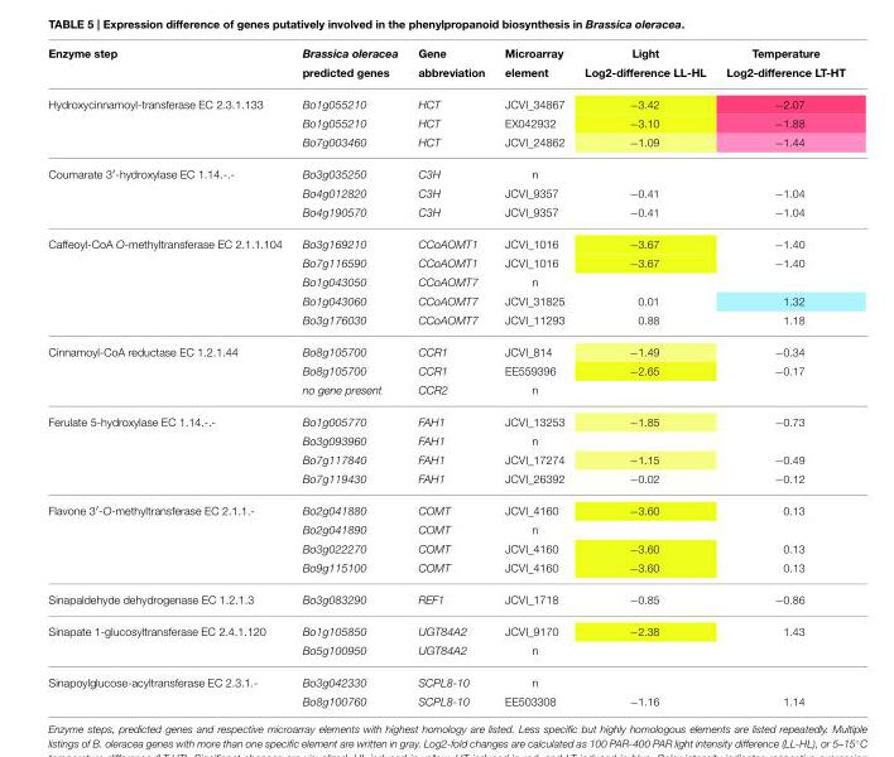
<table><thead><tr><td>Enzyme step</td><td>Brassica oleracea predicted genes</td><td>Gene abbreviation</td><td>Microarray element</td><td>Light Log2-difference LL-HL</td><td>Temperature Log2-difference LT-HT</td></tr></thead><tbody><tr><td rowspan="3">Hydroxycinnamoyl-transferase EC 2.3.1.133</td><td>Bo1g055210</td><td>HCT</td><td>JCVI_34867</td><td>−3.42</td><td>−2.07</td></tr><tr><td>Bo1g055210</td><td>HCT</td><td>EX042932</td><td>−3.10</td><td>−1.88</td></tr><tr><td>Bo7g003460</td><td>HCT</td><td>JCVI_24862</td><td>−1.09</td><td>−1.44</td></tr><tr><td rowspan="3">Coumarate 3′-hydroxylase EC 1.14.-.-</td><td>Bo3g035250</td><td>C3H</td><td>n</td><td></td><td></td></tr><tr><td>Bo4g012820</td><td>C3H</td><td>JCVI_9357</td><td>−0.41</td><td>−1.04</td></tr><tr><td>Bo4g190570</td><td>C3H</td><td>JCVI_9357</td><td>−0.41</td><td>−1.04</td></tr><tr><td rowspan="5">Caffeoyl-CoA O-methyltransferase EC 2.1.1.104</td><td>Bo3g169210</td><td>CCoAOMT1</td><td>JCVI_1016</td><td>−3.67</td><td>−1.40</td></tr><tr><td>Bo7g116590</td><td>CCoAOMT1</td><td>JCVI_1016</td><td>−3.67</td><td>−1.40</td></tr><tr><td>Bo1g043050</td><td>CCoAOMT7</td><td>n</td><td></td><td></td></tr><tr><td>Bo1g043060</td><td>CCoAOMT7</td><td>JCVI_31825</td><td>0.01</td><td>1.32</td></tr><tr><td>Bo3g176030</td><td>CCoAOMT7</td><td>JCVI_11293</td><td>0.88</td><td>1.18</td></tr><tr><td rowspan="3">Cinnamoyl-CoA reductase EC 1.2.1.44</td><td>Bo8g105700</td><td>CCR1</td><td>JCVI_814</td><td>−1.49</td><td>−0.34</td></tr><tr><td>Bo8g105700</td><td>CCR1</td><td>EE559396</td><td>−2.65</td><td>−0.17</td></tr><tr><td>no gene present</td><td>CCR2</td><td>n</td><td></td><td></td></tr><tr><td rowspan="4">Ferulate 5-hydroxylase EC 1.14.-.-</td><td>Bo1g005770</td><td>FAH1</td><td>JCVI_13253</td><td>−1.85</td><td>−0.73</td></tr><tr><td>Bo3g093960</td><td>FAH1</td><td>n</td><td></td><td></td></tr><tr><td>Bo7g117840</td><td>FAH1</td><td>JCVI_17274</td><td>−1.15</td><td>−0.49</td></tr><tr><td>Bo7g119430</td><td>FAH1</td><td>JCVI_26392</td><td>−0.02</td><td>−0.12</td></tr><tr><td rowspan="4">Flavone 3′-O-methyltransferase EC 2.1.1.-</td><td>Bo2g041880</td><td>COMT</td><td>JCVI_4160</td><td>−3.60</td><td>0.13</td></tr><tr><td>Bo2g041890</td><td>COMT</td><td>n</td><td></td><td></td></tr><tr><td>Bo3g022270</td><td>COMT</td><td>JCVI_4160</td><td>−3.60</td><td>0.13</td></tr><tr><td>Bo9g115100</td><td>COMT</td><td>JCVI_4160</td><td>−3.60</td><td>0.13</td></tr><tr><td>Sinapaldehyde dehydrogenase EC 1.2.1.3</td><td>Bo3g083290</td><td>REF1</td><td>JCVI_1718</td><td>−0.85</td><td>−0.86</td></tr><tr><td rowspan="2">Sinapate 1-glucosyltransferase EC 2.4.1.120</td><td>Bo1g105850</td><td>UGT84A2</td><td>JCVI_9170</td><td>−2.38</td><td>1.43</td></tr><tr><td>Bo5g100950</td><td>UGT84A2</td><td>n</td><td></td><td></td></tr><tr><td rowspan="2">Sinapoylglucose-acyltransferase EC 2.3.1.-</td><td>Bo3g042330</td><td>SCPL8-10</td><td>n</td><td></td><td></td></tr><tr><td>Bo8g100760</td><td>SCPL8-10</td><td>EE503308</td><td>−1.16</td><td>1.14</td></tr></tbody></table>